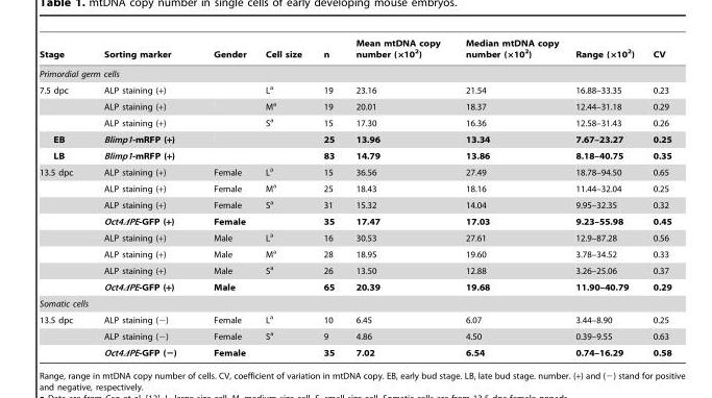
<table><thead><tr><td>Stage</td><td>Sorting marker</td><td>Gender</td><td>Cell size</td><td>n</td><td>Mean mtDNA copy number (×10<sup>2</sup>)</td><td>Median mtDNA copy number (×10<sup>2</sup>)</td><td>Range (×10<sup>2</sup>)</td><td>CV</td></tr></thead><tbody><tr><td colspan="9">Primordial germ cells</td></tr><tr><td rowspan="3">7.5 dpc</td><td>ALP staining (+)</td><td></td><td>L<sup>a</sup></td><td>19</td><td>23.16</td><td>21.54</td><td>16.88–33.35</td><td>0.23</td></tr><tr><td>ALP staining (+)</td><td></td><td>M<sup>a</sup></td><td>19</td><td>20.01</td><td>18.37</td><td>12.44–31.18</td><td>0.29</td></tr><tr><td>ALP staining (+)</td><td></td><td>S<sup>a</sup></td><td>15</td><td>17.30</td><td>16.36</td><td>12.58–31.43</td><td>0.26</td></tr><tr><td>EB</td><td>Blimp1-mRFP (+)</td><td></td><td></td><td>25</td><td>13.96</td><td>13.34</td><td>7.67–23.27</td><td>0.25</td></tr><tr><td>LB</td><td>Blimp1-mRFP (+)</td><td></td><td></td><td>83</td><td>14.79</td><td>13.86</td><td>8.18–40.75</td><td>0.35</td></tr><tr><td rowspan="8">13.5 dpc</td><td>ALP staining (+)</td><td>Female</td><td>L<sup>a</sup></td><td>15</td><td>36.56</td><td>27.49</td><td>18.78–94.50</td><td>0.65</td></tr><tr><td>ALP staining (+)</td><td>Female</td><td>M<sup>a</sup></td><td>25</td><td>18.43</td><td>18.16</td><td>11.44–32.04</td><td>0.25</td></tr><tr><td>ALP staining (+)</td><td>Female</td><td>S<sup>a</sup></td><td>31</td><td>15.32</td><td>14.04</td><td>9.95–32.35</td><td>0.32</td></tr><tr><td>Oct4ΔPE-GFP (+)</td><td>Female</td><td></td><td>35</td><td>17.47</td><td>17.03</td><td>9.23–55.98</td><td>0.45</td></tr><tr><td>ALP staining (+)</td><td>Male</td><td>L<sup>a</sup></td><td>16</td><td>30.53</td><td>27.61</td><td>12.9–87.28</td><td>0.56</td></tr><tr><td>ALP staining (+)</td><td>Male</td><td>M<sup>a</sup></td><td>28</td><td>18.95</td><td>19.60</td><td>3.78–34.52</td><td>0.33</td></tr><tr><td>ALP staining (+)</td><td>Male</td><td>S<sup>a</sup></td><td>26</td><td>13.50</td><td>12.88</td><td>3.26–25.06</td><td>0.37</td></tr><tr><td>Oct4ΔPE-GFP (+)</td><td>Male</td><td></td><td>65</td><td>20.39</td><td>19.68</td><td>11.90–40.79</td><td>0.29</td></tr><tr><td colspan="9">Somatic cells</td></tr><tr><td rowspan="3">13.5 dpc</td><td>ALP staining (−)</td><td>Female</td><td>L<sup>a</sup></td><td>10</td><td>6.45</td><td>6.07</td><td>3.44–8.90</td><td>0.25</td></tr><tr><td>ALP staining (−)</td><td>Female</td><td>S<sup>a</sup></td><td>9</td><td>4.86</td><td>4.50</td><td>0.39–9.55</td><td>0.63</td></tr><tr><td>Oct4ΔPE-GFP (−)</td><td>Female</td><td></td><td>35</td><td>7.02</td><td>6.54</td><td>0.74–16.29</td><td>0.58</td></tr></tbody></table>